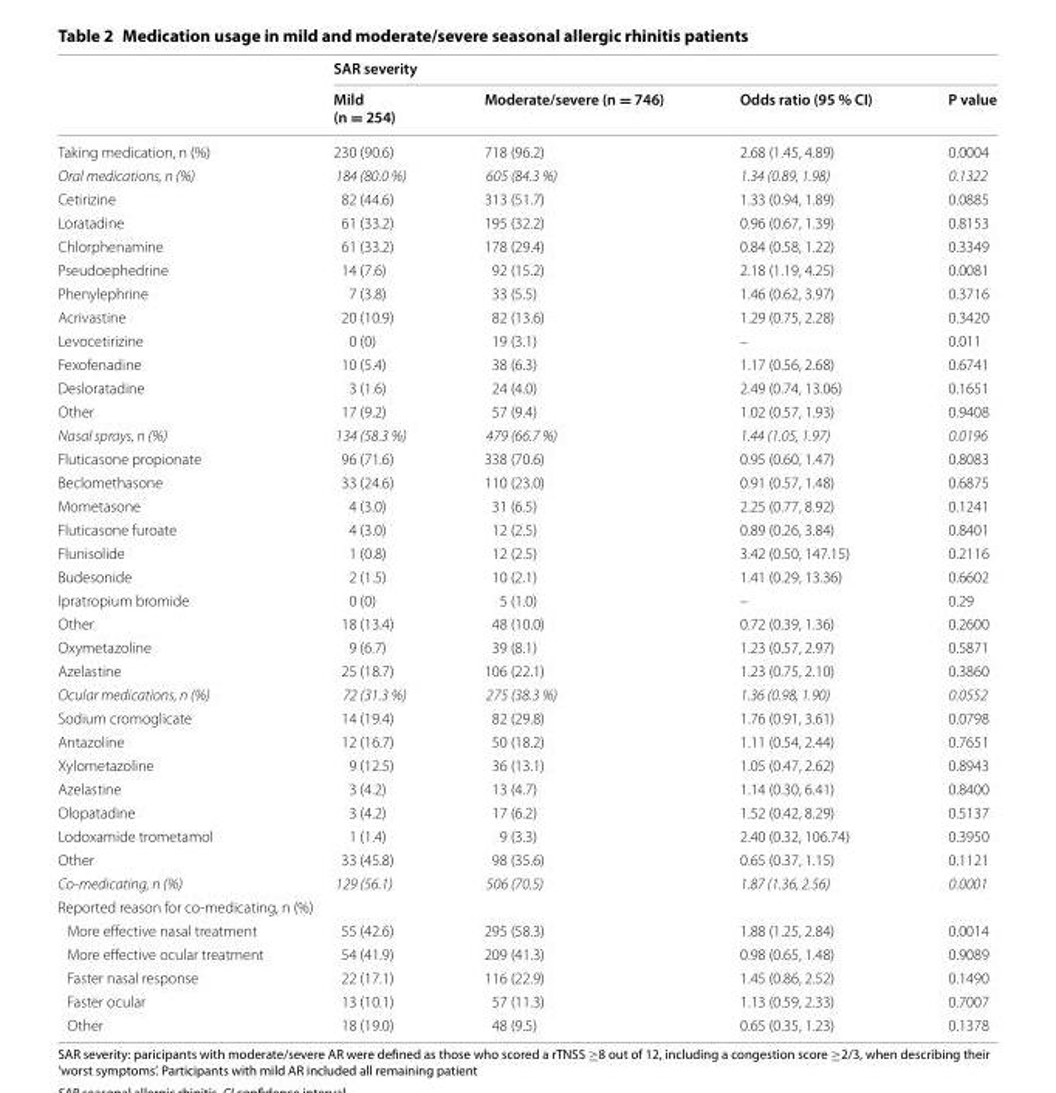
<table><thead><tr><td rowspan="2"></td><td colspan="4">SAR severity</td></tr><tr><td>Mild (n = 254)</td><td>Moderate/severe (n = 746)</td><td>Odds ratio (95 % CI)</td><td>P value</td></tr></thead><tbody><tr><td>Taking medication, n (%)</td><td>230 (90.6)</td><td>718 (96.2)</td><td>2.68 (1.45, 4.89)</td><td>0.0004</td></tr><tr><td>Oral medications, n (%)</td><td>184 (80.0 %)</td><td>605 (84.3 %)</td><td>1.34 (0.89, 1.98)</td><td>0.1322</td></tr><tr><td>Cetirizine</td><td>82 (44.6)</td><td>313 (51.7)</td><td>1.33 (0.94, 1.89)</td><td>0.0885</td></tr><tr><td>Loratadine</td><td>61 (33.2)</td><td>195 (32.2)</td><td>0.96 (0.67, 1.39)</td><td>0.8153</td></tr><tr><td>Chlorphenamine</td><td>61 (33.2)</td><td>178 (29.4)</td><td>0.84 (0.58, 1.22)</td><td>0.3349</td></tr><tr><td>Pseudoephedrine</td><td>14 (7.6)</td><td>92 (15.2)</td><td>2.18 (1.19, 4.25)</td><td>0.0081</td></tr><tr><td>Phenylephrine</td><td>7 (3.8)</td><td>33 (5.5)</td><td>1.46 (0.62, 3.97)</td><td>0.3716</td></tr><tr><td>Acrivastine</td><td>20 (10.9)</td><td>82 (13.6)</td><td>1.29 (0.75, 2.28)</td><td>0.3420</td></tr><tr><td>Levocetirizine</td><td>0 (0)</td><td>19 (3.1)</td><td>–</td><td>0.011</td></tr><tr><td>Fexofenadine</td><td>10 (5.4)</td><td>38 (6.3)</td><td>1.17 (0.56, 2.68)</td><td>0.6741</td></tr><tr><td>Desloratadine</td><td>3 (1.6)</td><td>24 (4.0)</td><td>2.49 (0.74, 13.06)</td><td>0.1651</td></tr><tr><td>Other</td><td>17 (9.2)</td><td>57 (9.4)</td><td>1.02 (0.57, 1.93)</td><td>0.9408</td></tr><tr><td>Nasal sprays, n (%)</td><td>134 (58.3 %)</td><td>479 (66.7 %)</td><td>1.44 (1.05, 1.97)</td><td>0.0196</td></tr><tr><td>Fluticasone propionate</td><td>96 (71.6)</td><td>338 (70.6)</td><td>0.95 (0.60, 1.47)</td><td>0.8083</td></tr><tr><td>Beclomethasone</td><td>33 (24.6)</td><td>110 (23.0)</td><td>0.91 (0.57, 1.48)</td><td>0.6875</td></tr><tr><td>Mometasone</td><td>4 (3.0)</td><td>31 (6.5)</td><td>2.25 (0.77, 8.92)</td><td>0.1241</td></tr><tr><td>Fluticasone furoate</td><td>4 (3.0)</td><td>12 (2.5)</td><td>0.89 (0.26, 3.84)</td><td>0.8401</td></tr><tr><td>Flunisolide</td><td>1 (0.8)</td><td>12 (2.5)</td><td>3.42 (0.50, 147.15)</td><td>0.2116</td></tr><tr><td>Budesonide</td><td>2 (1.5)</td><td>10 (2.1)</td><td>1.41 (0.29, 13.36)</td><td>0.6602</td></tr><tr><td>Ipratropium bromide</td><td>0 (0)</td><td>5 (1.0)</td><td>–</td><td>0.29</td></tr><tr><td>Other</td><td>18 (13.4)</td><td>48 (10.0)</td><td>0.72 (0.39, 1.36)</td><td>0.2600</td></tr><tr><td>Oxymetazoline</td><td>9 (6.7)</td><td>39 (8.1)</td><td>1.23 (0.57, 2.97)</td><td>0.5871</td></tr><tr><td>Azelastine</td><td>25 (18.7)</td><td>106 (22.1)</td><td>1.23 (0.75, 2.10)</td><td>0.3860</td></tr><tr><td>Ocular medications, n (%)</td><td>72 (31.3 %)</td><td>275 (38.3 %)</td><td>1.36 (0.98, 1.90)</td><td>0.0552</td></tr><tr><td>Sodium cromoglicate</td><td>14 (19.4)</td><td>82 (29.8)</td><td>1.76 (0.91, 3.61)</td><td>0.0798</td></tr><tr><td>Antazoline</td><td>12 (16.7)</td><td>50 (18.2)</td><td>1.11 (0.54, 2.44)</td><td>0.7651</td></tr><tr><td>Xylometazoline</td><td>9 (12.5)</td><td>36 (13.1)</td><td>1.05 (0.47, 2.62)</td><td>0.8943</td></tr><tr><td>Azelastine</td><td>3 (4.2)</td><td>13 (4.7)</td><td>1.14 (0.30, 6.41)</td><td>0.8400</td></tr><tr><td>Olopatadine</td><td>3 (4.2)</td><td>17 (6.2)</td><td>1.52 (0.42, 8.29)</td><td>0.5137</td></tr><tr><td>Lodoxamide trometamol</td><td>1 (1.4)</td><td>9 (3.3)</td><td>2.40 (0.32, 106.74)</td><td>0.3950</td></tr><tr><td>Other</td><td>33 (45.8)</td><td>98 (35.6)</td><td>0.65 (0.37, 1.15)</td><td>0.1121</td></tr><tr><td>Co-medicating, n (%)</td><td>129 (56.1)</td><td>506 (70.5)</td><td>1.87 (1.36, 2.56)</td><td>0.0001</td></tr><tr><td colspan="5">Reported reason for co-medicating, n (%)</td></tr><tr><td>More effective nasal treatment</td><td>55 (42.6)</td><td>295 (58.3)</td><td>1.88 (1.25, 2.84)</td><td>0.0014</td></tr><tr><td>More effective ocular treatment</td><td>54 (41.9)</td><td>209 (41.3)</td><td>0.98 (0.65, 1.48)</td><td>0.9089</td></tr><tr><td>Faster nasal response</td><td>22 (17.1)</td><td>116 (22.9)</td><td>1.45 (0.86, 2.52)</td><td>0.1490</td></tr><tr><td>Faster ocular</td><td>13 (10.1)</td><td>57 (11.3)</td><td>1.13 (0.59, 2.33)</td><td>0.7007</td></tr><tr><td>Other</td><td>18 (19.0)</td><td>48 (9.5)</td><td>0.65 (0.35, 1.23)</td><td>0.1378</td></tr></tbody></table>